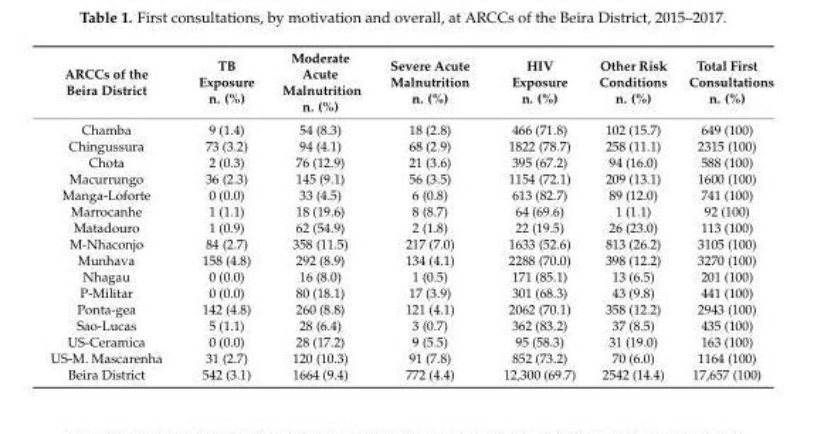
<table><thead><tr><td>ARCCs of the Beira District</td><td>TB Exposure n. (%)</td><td>Moderate Acute Malnutrition n. (%)</td><td>Severe Acute Malnutrition n. (%)</td><td>HIV Exposure n. (%)</td><td>Other Risk Conditions n. (%)</td><td>Total First Consultations n. (%)</td></tr></thead><tbody><tr><td>Chamba</td><td>9 (1.4)</td><td>54 (8.3)</td><td>18 (2.8)</td><td>466 (71.8)</td><td>102 (15.7)</td><td>649 (100)</td></tr><tr><td>Chingussura</td><td>73 (3.2)</td><td>94 (4.1)</td><td>68 (2.9)</td><td>1822 (78.7)</td><td>258 (11.1)</td><td>2315 (100)</td></tr><tr><td>Chota</td><td>2 (0.3)</td><td>76 (12.9)</td><td>21 (3.6)</td><td>395 (67.2)</td><td>94 (16.0)</td><td>588 (100)</td></tr><tr><td>Macurrungo</td><td>36 (2.3)</td><td>145 (9.1)</td><td>56 (3.5)</td><td>1154 (72.1)</td><td>209 (13.1)</td><td>1600 (100)</td></tr><tr><td>Manga-Loforte</td><td>0 (0.0)</td><td>33 (4.5)</td><td>6 (0.8)</td><td>613 (82.7)</td><td>89 (12.0)</td><td>741 (100)</td></tr><tr><td>Marrocanhe</td><td>1 (1.1)</td><td>18 (19.6)</td><td>8 (8.7)</td><td>64 (69.6)</td><td>1 (1.1)</td><td>92 (100)</td></tr><tr><td>Matadouro</td><td>1 (0.9)</td><td>62 (54.9)</td><td>2 (1.8)</td><td>22 (19.5)</td><td>26 (23.0)</td><td>113 (100)</td></tr><tr><td>M-Nhaconjo</td><td>84 (2.7)</td><td>358 (11.5)</td><td>217 (7.0)</td><td>1633 (52.6)</td><td>813 (26.2)</td><td>3105 (100)</td></tr><tr><td>Munhava</td><td>158 (4.8)</td><td>292 (8.9)</td><td>134 (4.1)</td><td>2288 (70.0)</td><td>398 (12.2)</td><td>3270 (100)</td></tr><tr><td>Nhagau</td><td>0 (0.0)</td><td>16 (8.0)</td><td>1 (0.5)</td><td>171 (85.1)</td><td>13 (6.5)</td><td>201 (100)</td></tr><tr><td>P-Militar</td><td>0 (0.0)</td><td>80 (18.1)</td><td>17 (3.9)</td><td>301 (68.3)</td><td>43 (9.8)</td><td>441 (100)</td></tr><tr><td>Ponta-gea</td><td>142 (4.8)</td><td>260 (8.8)</td><td>121 (4.1)</td><td>2062 (70.1)</td><td>358 (12.2)</td><td>2943 (100)</td></tr><tr><td>Sao-Lucas</td><td>5 (1.1)</td><td>28 (6.4)</td><td>3 (0.7)</td><td>362 (83.2)</td><td>37 (8.5)</td><td>435 (100)</td></tr><tr><td>US-Ceramica</td><td>0 (0.0)</td><td>28 (17.2)</td><td>9 (5.5)</td><td>95 (58.3)</td><td>31 (19.0)</td><td>163 (100)</td></tr><tr><td>US-M. Mascarenha</td><td>31 (2.7)</td><td>120 (10.3)</td><td>91 (7.8)</td><td>852 (73.2)</td><td>70 (6.0)</td><td>1164 (100)</td></tr><tr><td>Beira District</td><td>542 (3.1)</td><td>1664 (9.4)</td><td>772 (4.4)</td><td>12,300 (69.7)</td><td>2542 (14.4)</td><td>17,657 (100)</td></tr></tbody></table>